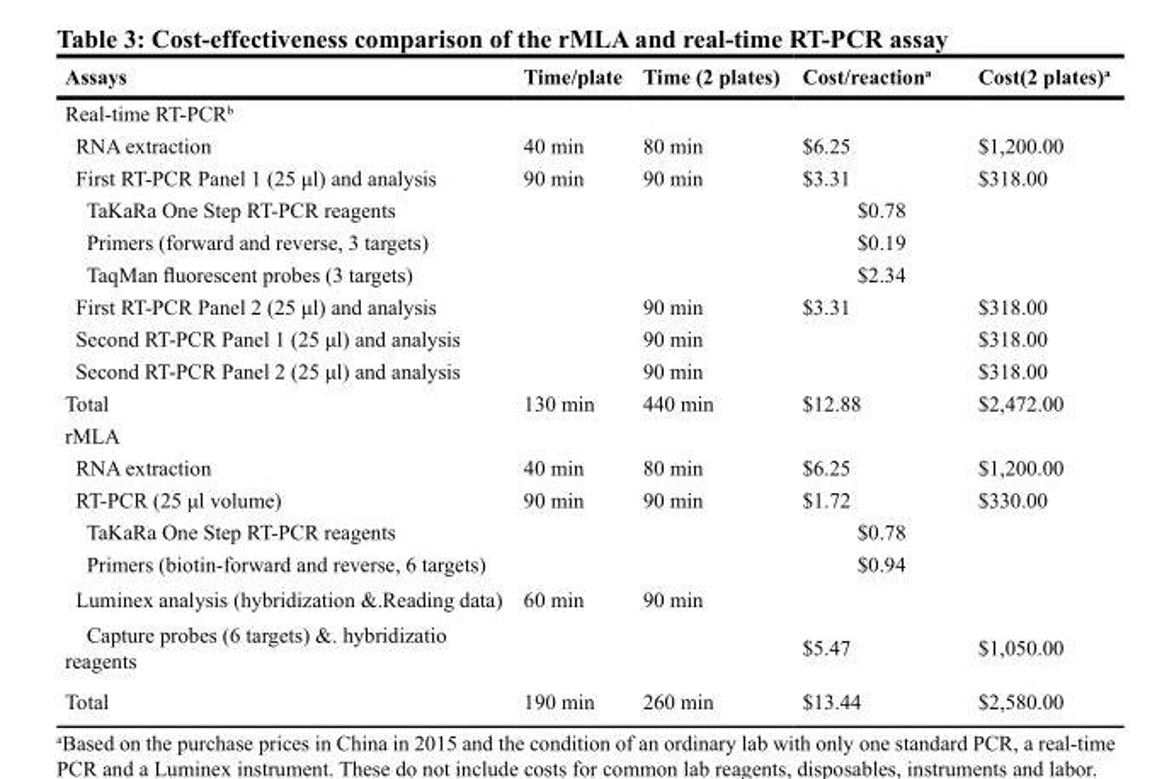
<table><thead><tr><td>Assays</td><td>Time/plate</td><td>Time (2 plates)</td><td>Cost/reaction<sup>a</sup></td><td>Cost(2 plates)<sup>a</sup></td></tr></thead><tbody><tr><td colspan="5">Real-time RT-PCR<sup>b</sup></td></tr><tr><td>RNA extraction</td><td>40 min</td><td>80 min</td><td>$6.25</td><td>$1,200.00</td></tr><tr><td>First RT-PCR Panel 1 (25 μl) and analysis</td><td>90 min</td><td>90 min</td><td>$3.31</td><td>$318.00</td></tr><tr><td>TaKaRa One Step RT-PCR reagents</td><td></td><td></td><td>$0.78</td><td></td></tr><tr><td>Primers (forward and reverse, 3 targets)</td><td></td><td></td><td>$0.19</td><td></td></tr><tr><td>TaqMan fluorescent probes (3 targets)</td><td></td><td></td><td>$2.34</td><td></td></tr><tr><td>First RT-PCR Panel 2 (25 μl) and analysis</td><td></td><td>90 min</td><td>$3.31</td><td>$318.00</td></tr><tr><td>Second RT-PCR Panel 1 (25 μl) and analysis</td><td></td><td>90 min</td><td></td><td>$318.00</td></tr><tr><td>Second RT-PCR Panel 2 (25 μl) and analysis</td><td></td><td>90 min</td><td></td><td>$318.00</td></tr><tr><td>Total</td><td>130 min</td><td>440 min</td><td>$12.88</td><td>$2,472.00</td></tr><tr><td colspan="5">rMLA</td></tr><tr><td>RNA extraction</td><td>40 min</td><td>80 min</td><td>$6.25</td><td>$1,200.00</td></tr><tr><td>RT-PCR (25 μl volume)</td><td>90 min</td><td>90 min</td><td>$1.72</td><td>$330.00</td></tr><tr><td>TaKaRa One Step RT-PCR reagents</td><td></td><td></td><td>$0.78</td><td></td></tr><tr><td>Primers (biotin-forward and reverse, 6 targets)</td><td></td><td></td><td>$0.94</td><td></td></tr><tr><td>Luminex analysis (hybridization &amp;.Reading data)</td><td>60 min</td><td>90 min</td><td></td><td></td></tr><tr><td>Capture probes (6 targets) &amp;. hybridizatio reagents</td><td></td><td></td><td>$5.47</td><td>$1,050.00</td></tr><tr><td>Total</td><td>190 min</td><td>260 min</td><td>$13.44</td><td>$2,580.00</td></tr></tbody></table>